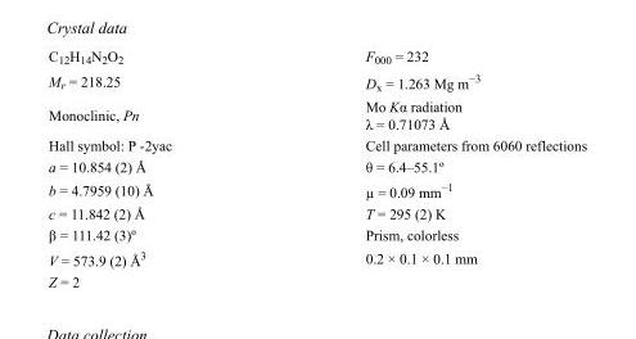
<table><tbody><tr><td>C<sub>12</sub>H<sub>14</sub>N<sub>2</sub>O<sub>2</sub></td><td>F<sub>000</sub> = 232</td></tr><tr><td>M<sub>r</sub> = 218.25</td><td>D<sub>x</sub> = 1.263 Mg m<sup>−3</sup></td></tr><tr><td>Monoclinic, Pn</td><td>Mo Kα radiation λ = 0.71073 Å</td></tr><tr><td>Hall symbol: P -2yac</td><td>Cell parameters from 6060 reflections</td></tr><tr><td>a = 10.854 (2) Å</td><td>θ = 6.4–55.1º</td></tr><tr><td>b = 4.7959 (10) Å</td><td>µ = 0.09 mm<sup>−1</sup></td></tr><tr><td>c = 11.842 (2) Å</td><td>T = 295 (2) K</td></tr><tr><td>β = 111.42 (3)º</td><td>Prism, colorless</td></tr><tr><td>V = 573.9 (2) Å<sup>3</sup></td><td>0.2 × 0.1 × 0.1 mm</td></tr><tr><td>Z = 2</td><td></td></tr></tbody></table>